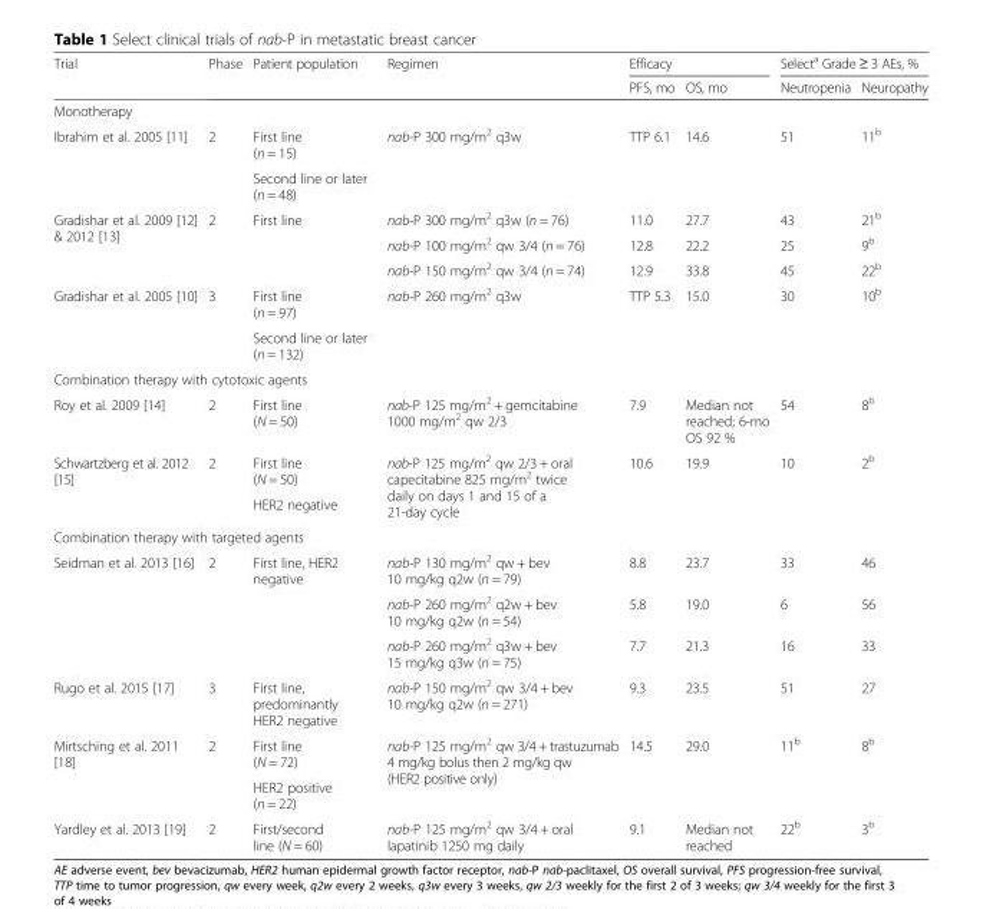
<table><thead><tr><td rowspan="2">Trial</td><td rowspan="2">Phase</td><td rowspan="2">Patient population</td><td rowspan="2">Regimen</td><td colspan="2">Efficacy</td><td colspan="2">Select<sup>a</sup> Grade ≥ 3 AEs, %</td></tr><tr><td>PFS, mo</td><td>OS, mo</td><td>Neutropenia</td><td>Neuropathy</td></tr></thead><tbody><tr><td colspan="8">Monotherapy</td></tr><tr><td rowspan="2">Ibrahim et al. 2005 [11]</td><td rowspan="2">2</td><td>First line (n = 15)</td><td rowspan="2">nab-P 300 mg/m<sup>2</sup> q3w</td><td rowspan="2">TTP 6.1</td><td rowspan="2">14.6</td><td rowspan="2">51</td><td rowspan="2">11<sup>b</sup></td></tr><tr><td>Second line or later (n = 48)</td></tr><tr><td rowspan="3">Gradishar et al. 2009 [12] &amp; 2012 [13]</td><td rowspan="3">2</td><td rowspan="3">First line</td><td>nab-P 300 mg/m<sup>2</sup> q3w (n = 76)</td><td>11.0</td><td>27.7</td><td>43</td><td>21<sup>b</sup></td></tr><tr><td>nab-P 100 mg/m<sup>2</sup> qw 3/4 (n = 76)</td><td>12.8</td><td>22.2</td><td>25</td><td>9<sup>b</sup></td></tr><tr><td>nab-P 150 mg/m<sup>2</sup> qw 3/4 (n = 74)</td><td>12.9</td><td>33.8</td><td>45</td><td>22<sup>b</sup></td></tr><tr><td rowspan="2">Gradishar et al. 2005 [10]</td><td rowspan="2">3</td><td>First line (n = 97)</td><td rowspan="2">nab-P 260 mg/m<sup>2</sup> q3w</td><td rowspan="2">TTP 5.3</td><td rowspan="2">15.0</td><td rowspan="2">30</td><td rowspan="2">10<sup>b</sup></td></tr><tr><td>Second line or later (n = 132)</td></tr><tr><td colspan="8">Combination therapy with cytotoxic agents</td></tr><tr><td>Roy et al. 2009 [14]</td><td>2</td><td>First line (N = 50)</td><td>nab-P 125 mg/m<sup>2</sup> + gemcitabine 1000 mg/m<sup>2</sup> qw 2/3</td><td>7.9</td><td>Median not reached; 6-mo OS 92 %</td><td>54</td><td>8<sup>b</sup></td></tr><tr><td rowspan="2">Schwartzberg et al. 2012 [15]</td><td rowspan="2">2</td><td>First line (N = 50)</td><td rowspan="2">nab-P 125 mg/m<sup>2</sup> qw 2/3 + oral capecitabine 825 mg/m<sup>2</sup> twice daily on days 1 and 15 of a 21-day cycle</td><td rowspan="2">10.6</td><td rowspan="2">19.9</td><td rowspan="2">10</td><td rowspan="2">2<sup>b</sup></td></tr><tr><td>HER2 negative</td></tr><tr><td colspan="8">Combination therapy with targeted agents</td></tr><tr><td rowspan="3">Seidman et al. 2013 [16]</td><td rowspan="3">2</td><td rowspan="3">First line, HER2 negative</td><td>nab-P 130 mg/m<sup>2</sup> qw + bev 10 mg/kg q2w (n = 79)</td><td>8.8</td><td>23.7</td><td>33</td><td>46</td></tr><tr><td>nab-P 260 mg/m<sup>2</sup> q2w + bev 10 mg/kg q2w (n = 54)</td><td>5.8</td><td>19.0</td><td>6</td><td>56</td></tr><tr><td>nab-P 260 mg/m<sup>2</sup> q3w + bev 15 mg/kg q3w (n = 75)</td><td>7.7</td><td>21.3</td><td>16</td><td>33</td></tr><tr><td>Rugo et al. 2015 [17]</td><td>3</td><td>First line, predominantly HER2 negative</td><td>nab-P 150 mg/m<sup>2</sup> qw 3/4 + bev 10 mg/kg q2w (n = 271)</td><td>9.3</td><td>23.5</td><td>51</td><td>27</td></tr><tr><td rowspan="2">Mirtsching et al. 2011 [18]</td><td rowspan="2">2</td><td>First line (N = 72)</td><td rowspan="2">nab-P 125 mg/m<sup>2</sup> qw 3/4 + trastuzumab 4 mg/kg bolus then 2 mg/kg qw (HER2 positive only)</td><td rowspan="2">14.5</td><td rowspan="2">29.0</td><td rowspan="2">11<sup>b</sup></td><td rowspan="2">8<sup>b</sup></td></tr><tr><td>HER2 positive (n = 22)</td></tr><tr><td>Yardley et al. 2013 [19]</td><td>2</td><td>First/second line (N = 60)</td><td>nab-P 125 mg/m<sup>2</sup> qw 3/4 + oral lapatinib 1250 mg daily</td><td>9.1</td><td>Median not reached</td><td>22<sup>b</sup></td><td>3<sup>b</sup></td></tr></tbody></table>